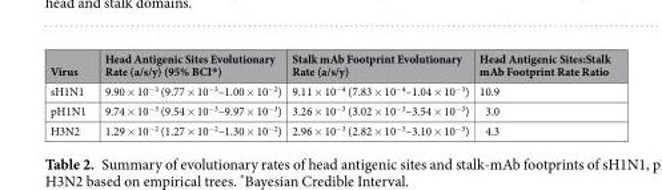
<table><thead><tr><td>Virus</td><td>Head Antigenic Sites Evolutionary Rate (a/s/y) (95% BCI*)</td><td>Stalk mAb Footprint Evolutionary Rate (a/s/y)</td><td>Head Antigenic Sites:Stalk mAb Footprint Rate Ratio</td></tr></thead><tbody><tr><td>sH1N1</td><td>9.90 × 10<sup>−3</sup> (9.77 × 10<sup>−3</sup>–1.00 × 10<sup>−2</sup>)</td><td>9.11 × 10<sup>−4</sup> (7.83 × 10<sup>−4</sup>–1.04 × 10<sup>−3</sup>)</td><td>10.9</td></tr><tr><td>pH1N1</td><td>9.74 × 10<sup>−3</sup> (9.54 × 10<sup>−3</sup>–9.97 × 10<sup>−3</sup>)</td><td>3.26 × 10<sup>−3</sup> (3.02 × 10<sup>−3</sup>–3.54 × 10<sup>−3</sup>)</td><td>3.0</td></tr><tr><td>H3N2</td><td>1.29 × 10<sup>−2</sup> (1.27 × 10<sup>−2</sup>–1.30 × 10<sup>−2</sup>)</td><td>2.96 × 10<sup>−3</sup> (2.82 × 10<sup>−3</sup>–3.10 × 10<sup>−3</sup>)</td><td>4.3</td></tr></tbody></table>